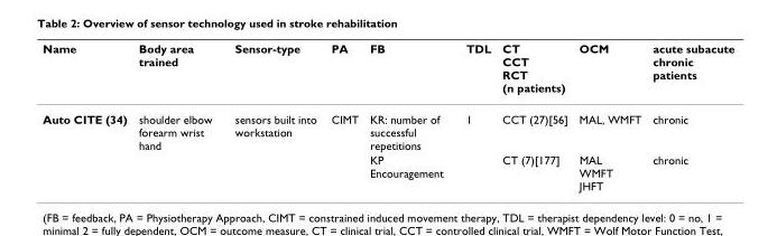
<table><thead><tr><td>Name</td><td>Body area trained</td><td>Sensor-type</td><td>PA</td><td>FB</td><td>TDL</td><td>CT CCT RCT (n patients)</td><td>OCM</td><td>acute subacute chronic patients</td></tr></thead><tbody><tr><td rowspan="2">Auto CITE (34)</td><td>shoulder elbow forearm wrist hand</td><td>sensors built into workstation</td><td>CIMT</td><td>KR: number of successful repetitions</td><td>1</td><td>CCT (27)[56]</td><td>MAL, WMFT</td><td>chronic</td></tr><tr><td></td><td></td><td></td><td>KP Encouragement</td><td></td><td>CT (7)[177]</td><td>MAL WMFT JHFT</td><td>chronic</td></tr></tbody></table>